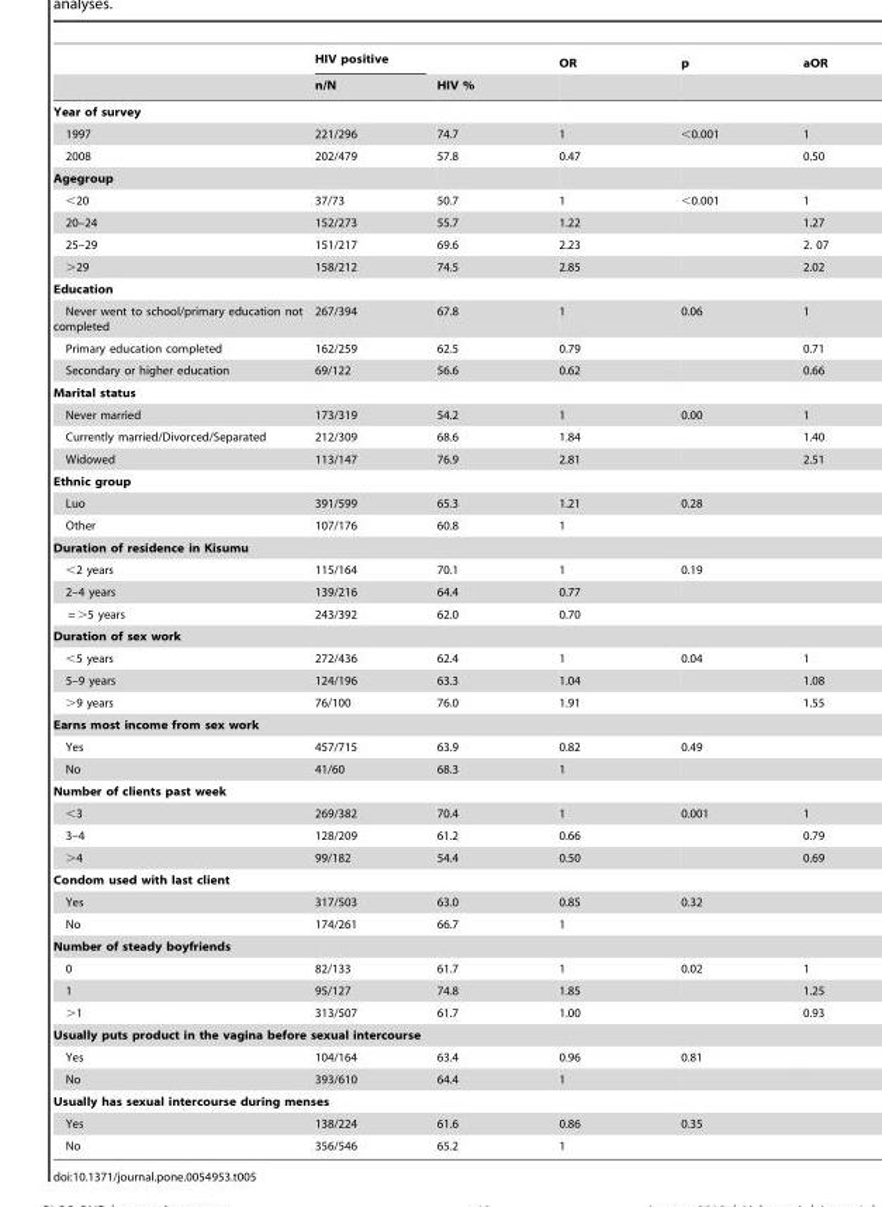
<table><thead><tr><td rowspan="2"></td><td rowspan="2">HIV positive n/N</td><td rowspan="2">HIV %</td><td rowspan="2">OR</td><td rowspan="2">p</td><td rowspan="2">aOR</td></tr><tr></tr></thead><tbody><tr><td colspan="6">Year of survey</td></tr><tr><td>1997</td><td>221/296</td><td>74.7</td><td>1</td><td>&lt;0.001</td><td>1</td></tr><tr><td>2008</td><td>202/479</td><td>57.8</td><td>0.47</td><td></td><td>0.50</td></tr><tr><td colspan="6">Agegroup</td></tr><tr><td>&lt;20</td><td>37/73</td><td>50.7</td><td>1</td><td>&lt;0.001</td><td>1</td></tr><tr><td>20–24</td><td>152/273</td><td>55.7</td><td>1.22</td><td></td><td>1.27</td></tr><tr><td>25–29</td><td>151/217</td><td>69.6</td><td>2.23</td><td></td><td>2. 07</td></tr><tr><td>&gt;29</td><td>158/212</td><td>74.5</td><td>2.85</td><td></td><td>2.02</td></tr><tr><td colspan="6">Education</td></tr><tr><td>Never went to school/primary education not completed</td><td>267/394</td><td>67.8</td><td>1</td><td>0.06</td><td>1</td></tr><tr><td>Primary education completed</td><td>162/259</td><td>62.5</td><td>0.79</td><td></td><td>0.71</td></tr><tr><td>Secondary or higher education</td><td>69/122</td><td>56.6</td><td>0.62</td><td></td><td>0.66</td></tr><tr><td colspan="6">Marital status</td></tr><tr><td>Never married</td><td>173/319</td><td>54.2</td><td>1</td><td>0.00</td><td>1</td></tr><tr><td>Currently married/Divorced/Separated</td><td>212/309</td><td>68.6</td><td>1.84</td><td></td><td>1.40</td></tr><tr><td>Widowed</td><td>113/147</td><td>76.9</td><td>2.81</td><td></td><td>2.51</td></tr><tr><td colspan="6">Ethnic group</td></tr><tr><td>Luo</td><td>391/599</td><td>65.3</td><td>1.21</td><td>0.28</td><td></td></tr><tr><td>Other</td><td>107/176</td><td>60.8</td><td>1</td><td></td><td></td></tr><tr><td colspan="6">Duration of residence in Kisumu</td></tr><tr><td>&lt;2 years</td><td>115/164</td><td>70.1</td><td>1</td><td>0.19</td><td></td></tr><tr><td>2–4 years</td><td>139/216</td><td>64.4</td><td>0.77</td><td></td><td></td></tr><tr><td>= &gt;5 years</td><td>243/392</td><td>62.0</td><td>0.70</td><td></td><td></td></tr><tr><td colspan="6">Duration of sex work</td></tr><tr><td>&lt;5 years</td><td>272/436</td><td>62.4</td><td>1</td><td>0.04</td><td>1</td></tr><tr><td>5–9 years</td><td>124/196</td><td>63.3</td><td>1.04</td><td></td><td>1.08</td></tr><tr><td>&gt;9 years</td><td>76/100</td><td>76.0</td><td>1.91</td><td></td><td>1.55</td></tr><tr><td colspan="6">Earns most income from sex work</td></tr><tr><td>Yes</td><td>457/715</td><td>63.9</td><td>0.82</td><td>0.49</td><td></td></tr><tr><td>No</td><td>41/60</td><td>68.3</td><td>1</td><td></td><td></td></tr><tr><td colspan="6">Number of clients past week</td></tr><tr><td>&lt;3</td><td>269/382</td><td>70.4</td><td>1</td><td>0.001</td><td>1</td></tr><tr><td>3–4</td><td>128/209</td><td>61.2</td><td>0.66</td><td></td><td>0.79</td></tr><tr><td>&gt;4</td><td>99/182</td><td>54.4</td><td>0.50</td><td></td><td>0.69</td></tr><tr><td colspan="6">Condom used with last client</td></tr><tr><td>Yes</td><td>317/503</td><td>63.0</td><td>0.85</td><td>0.32</td><td></td></tr><tr><td>No</td><td>174/261</td><td>66.7</td><td>1</td><td></td><td></td></tr><tr><td colspan="6">Number of steady boyfriends</td></tr><tr><td>0</td><td>82/133</td><td>61.7</td><td>1</td><td>0.02</td><td>1</td></tr><tr><td>1</td><td>95/127</td><td>74.8</td><td>1.85</td><td></td><td>1.25</td></tr><tr><td>&gt;1</td><td>313/507</td><td>61.7</td><td>1.00</td><td></td><td>0.93</td></tr><tr><td colspan="6">Usually puts product in the vagina before sexual intercourse</td></tr><tr><td>Yes</td><td>104/164</td><td>63.4</td><td>0.96</td><td>0.81</td><td></td></tr><tr><td>No</td><td>393/610</td><td>64.4</td><td>1</td><td></td><td></td></tr><tr><td colspan="6">Usually has sexual intercourse during menses</td></tr><tr><td>Yes</td><td>138/224</td><td>61.6</td><td>0.86</td><td>0.35</td><td></td></tr><tr><td>No</td><td>356/546</td><td>65.2</td><td>1</td><td></td><td></td></tr></tbody></table>